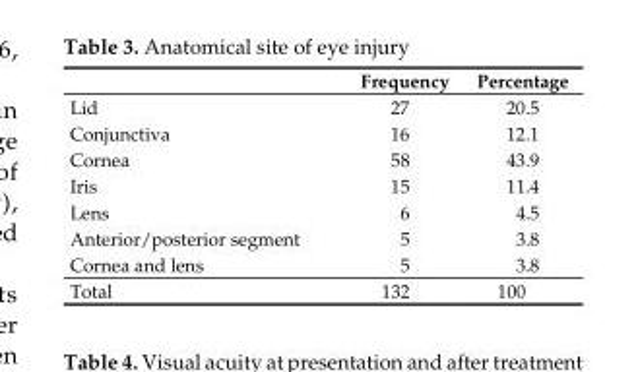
<table><thead><tr><td></td><td>Frequency</td><td>Percentage</td></tr></thead><tbody><tr><td>Lid</td><td>27</td><td>20.5</td></tr><tr><td>Conjunctiva</td><td>16</td><td>12.1</td></tr><tr><td>Cornea</td><td>58</td><td>43.9</td></tr><tr><td>Iris</td><td>15</td><td>11.4</td></tr><tr><td>Lens</td><td>6</td><td>4.5</td></tr><tr><td>Anterior/posterior segment</td><td>5</td><td>3.8</td></tr><tr><td>Cornea and lens</td><td>5</td><td>3.8</td></tr><tr><td>Total</td><td>132</td><td>100</td></tr></tbody></table>